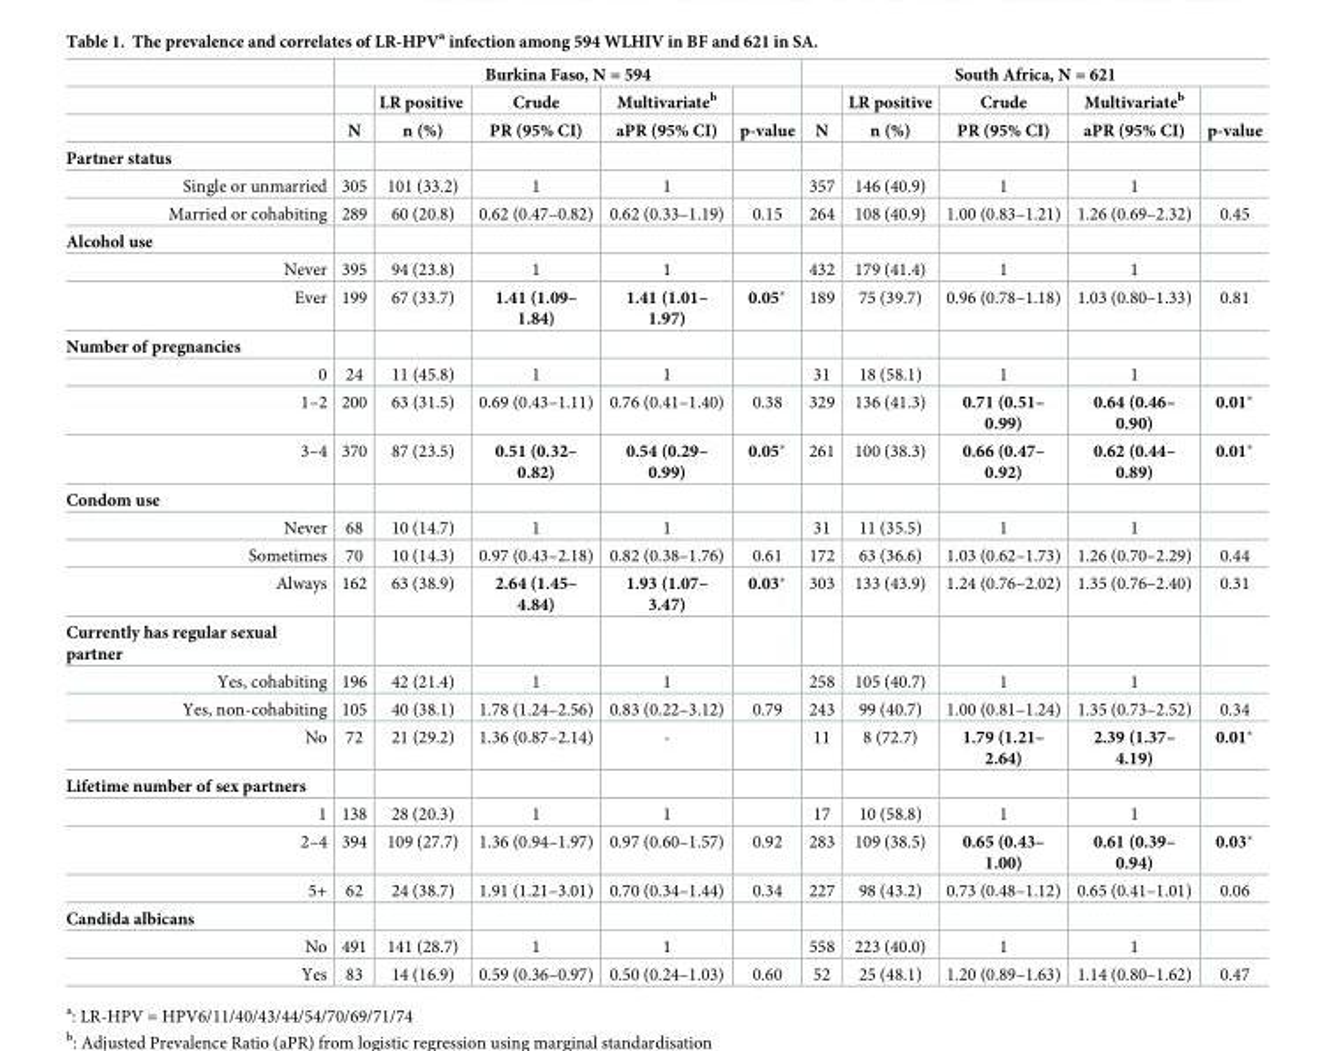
<table><thead><tr><td rowspan="3"></td><td colspan="5">Burkina Faso, N = 594</td><td colspan="5">South Africa, N = 621</td></tr><tr><td rowspan="2">N</td><td rowspan="2">LR positive n (%)</td><td rowspan="2">Crude PR (95% CI)</td><td rowspan="2">Multivariate<sup>b</sup> aPR (95% CI)</td><td rowspan="2">p-value</td><td rowspan="2">N</td><td rowspan="2">LR positive n (%)</td><td rowspan="2">Crude PR (95% CI)</td><td rowspan="2">Multivariate<sup>b</sup> aPR (95% CI)</td><td rowspan="2">p-value</td></tr><tr></tr></thead><tbody><tr><td colspan="11">Partner status</td></tr><tr><td>Single or unmarried</td><td>305</td><td>101 (33.2)</td><td>1</td><td>1</td><td></td><td>357</td><td>146 (40.9)</td><td>1</td><td>1</td><td></td></tr><tr><td>Married or cohabiting</td><td>289</td><td>60 (20.8)</td><td>0.62 (0.47–0.82)</td><td>0.62 (0.33–1.19)</td><td>0.15</td><td>264</td><td>108 (40.9)</td><td>1.00 (0.83–1.21)</td><td>1.26 (0.69–2.32)</td><td>0.45</td></tr><tr><td colspan="11">Alcohol use</td></tr><tr><td>Never</td><td>395</td><td>94 (23.8)</td><td>1</td><td>1</td><td></td><td>432</td><td>179 (41.4)</td><td>1</td><td>1</td><td></td></tr><tr><td>Ever</td><td>199</td><td>67 (33.7)</td><td>1.41 (1.09– 1.84)</td><td>1.41 (1.01– 1.97)</td><td>0.05*</td><td>189</td><td>75 (39.7)</td><td>0.96 (0.78–1.18)</td><td>1.03 (0.80–1.33)</td><td>0.81</td></tr><tr><td colspan="11">Number of pregnancies</td></tr><tr><td>0</td><td>24</td><td>11 (45.8)</td><td>1</td><td>1</td><td></td><td>31</td><td>18 (58.1)</td><td>1</td><td>1</td><td></td></tr><tr><td>1–2</td><td>200</td><td>63 (31.5)</td><td>0.69 (0.43–1.11)</td><td>0.76 (0.41–1.40)</td><td>0.38</td><td>329</td><td>136 (41.3)</td><td>0.71 (0.51– 0.99)</td><td>0.64 (0.46– 0.90)</td><td>0.01*</td></tr><tr><td>3–4</td><td>370</td><td>87 (23.5)</td><td>0.51 (0.32– 0.82)</td><td>0.54 (0.29– 0.99)</td><td>0.05*</td><td>261</td><td>100 (38.3)</td><td>0.66 (0.47– 0.92)</td><td>0.62 (0.44– 0.89)</td><td>0.01*</td></tr><tr><td colspan="11">Condom use</td></tr><tr><td>Never</td><td>68</td><td>10 (14.7)</td><td>1</td><td>1</td><td></td><td>31</td><td>11 (35.5)</td><td>1</td><td>1</td><td></td></tr><tr><td>Sometimes</td><td>70</td><td>10 (14.3)</td><td>0.97 (0.43–2.18)</td><td>0.82 (0.38–1.76)</td><td>0.61</td><td>172</td><td>63 (36.6)</td><td>1.03 (0.62–1.73)</td><td>1.26 (0.70–2.29)</td><td>0.44</td></tr><tr><td>Always</td><td>162</td><td>63 (38.9)</td><td>2.64 (1.45– 4.84)</td><td>1.93 (1.07– 3.47)</td><td>0.03*</td><td>303</td><td>133 (43.9)</td><td>1.24 (0.76–2.02)</td><td>1.35 (0.76–2.40)</td><td>0.31</td></tr><tr><td colspan="11">Currently has regular sexual partner</td></tr><tr><td>Yes, cohabiting</td><td>196</td><td>42 (21.4)</td><td>1</td><td>1</td><td></td><td>258</td><td>105 (40.7)</td><td>1</td><td>1</td><td></td></tr><tr><td>Yes, non-cohabiting</td><td>105</td><td>40 (38.1)</td><td>1.78 (1.24–2.56)</td><td>0.83 (0.22–3.12)</td><td>0.79</td><td>243</td><td>99 (40.7)</td><td>1.00 (0.81–1.24)</td><td>1.35 (0.73–2.52)</td><td>0.34</td></tr><tr><td>No</td><td>72</td><td>21 (29.2)</td><td>1.36 (0.87–2.14)</td><td>-</td><td></td><td>11</td><td>8 (72.7)</td><td>1.79 (1.21– 2.64)</td><td>2.39 (1.37– 4.19)</td><td>0.01*</td></tr><tr><td colspan="11">Lifetime number of sex partners</td></tr><tr><td>1</td><td>138</td><td>28 (20.3)</td><td>1</td><td>1</td><td></td><td>17</td><td>10 (58.8)</td><td>1</td><td>1</td><td></td></tr><tr><td>2–4</td><td>394</td><td>109 (27.7)</td><td>1.36 (0.94–1.97)</td><td>0.97 (0.60–1.57)</td><td>0.92</td><td>283</td><td>109 (38.5)</td><td>0.65 (0.43– 1.00)</td><td>0.61 (0.39– 0.94)</td><td>0.03*</td></tr><tr><td>5+</td><td>62</td><td>24 (38.7)</td><td>1.91 (1.21–3.01)</td><td>0.70 (0.34–1.44)</td><td>0.34</td><td>227</td><td>98 (43.2)</td><td>0.73 (0.48–1.12)</td><td>0.65 (0.41–1.01)</td><td>0.06</td></tr><tr><td colspan="11">Candida albicans</td></tr><tr><td>No</td><td>491</td><td>141 (28.7)</td><td>1</td><td>1</td><td></td><td>558</td><td>223 (40.0)</td><td>1</td><td>1</td><td></td></tr><tr><td>Yes</td><td>83</td><td>14 (16.9)</td><td>0.59 (0.36–0.97)</td><td>0.50 (0.24–1.03)</td><td>0.60</td><td>52</td><td>25 (48.1)</td><td>1.20 (0.89–1.63)</td><td>1.14 (0.80–1.62)</td><td>0.47</td></tr></tbody></table>